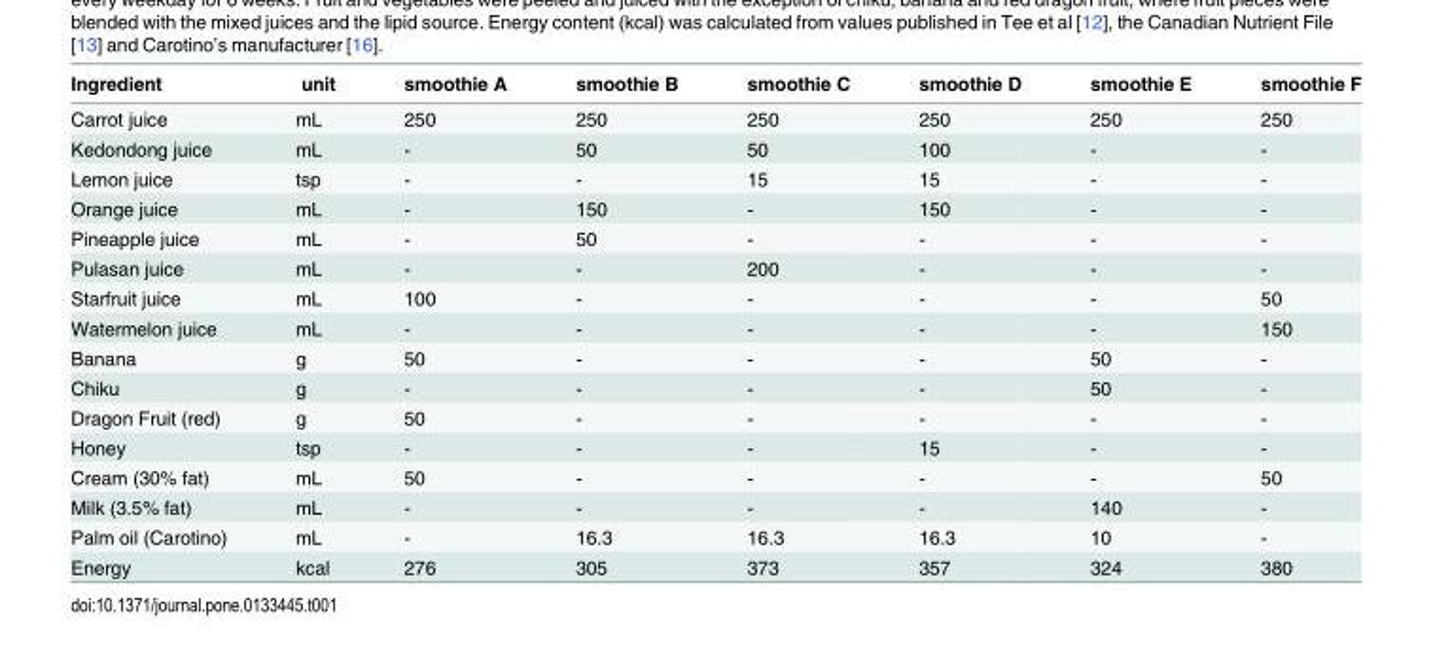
<table><thead><tr><td>Ingredient</td><td>unit</td><td>smoothie A</td><td>smoothie B</td><td>smoothie C</td><td>smoothie D</td><td>smoothie E</td><td>smoothie F</td></tr></thead><tbody><tr><td>Carrot juice</td><td>mL</td><td>250</td><td>250</td><td>250</td><td>250</td><td>250</td><td>250</td></tr><tr><td>Kedondong juice</td><td>mL</td><td>-</td><td>50</td><td>50</td><td>100</td><td>-</td><td>-</td></tr><tr><td>Lemon juice</td><td>tsp</td><td>-</td><td>-</td><td>15</td><td>15</td><td>-</td><td>-</td></tr><tr><td>Orange juice</td><td>mL</td><td>-</td><td>150</td><td>-</td><td>150</td><td>-</td><td>-</td></tr><tr><td>Pineapple juice</td><td>mL</td><td>-</td><td>50</td><td>-</td><td>-</td><td>-</td><td>-</td></tr><tr><td>Pulasan juice</td><td>mL</td><td>-</td><td>-</td><td>200</td><td>-</td><td>-</td><td>-</td></tr><tr><td>Starfruit juice</td><td>mL</td><td>100</td><td>-</td><td>-</td><td>-</td><td>-</td><td>50</td></tr><tr><td>Watermelon juice</td><td>mL</td><td>-</td><td>-</td><td>-</td><td>-</td><td>-</td><td>150</td></tr><tr><td>Banana</td><td>g</td><td>50</td><td>-</td><td>-</td><td>-</td><td>50</td><td>-</td></tr><tr><td>Chiku</td><td>g</td><td>-</td><td>-</td><td>-</td><td>-</td><td>50</td><td>-</td></tr><tr><td>Dragon Fruit (red)</td><td>g</td><td>50</td><td>-</td><td>-</td><td>-</td><td>-</td><td>-</td></tr><tr><td>Honey</td><td>tsp</td><td>-</td><td>-</td><td>-</td><td>15</td><td>-</td><td>-</td></tr><tr><td>Cream (30% fat)</td><td>mL</td><td>50</td><td>-</td><td>-</td><td>-</td><td>-</td><td>50</td></tr><tr><td>Milk (3.5% fat)</td><td>mL</td><td>-</td><td>-</td><td>-</td><td>-</td><td>140</td><td>-</td></tr><tr><td>Palm oil (Carotino)</td><td>mL</td><td>-</td><td>16.3</td><td>16.3</td><td>16.3</td><td>10</td><td>-</td></tr><tr><td>Energy</td><td>kcal</td><td>276</td><td>305</td><td>373</td><td>357</td><td>324</td><td>380</td></tr></tbody></table>